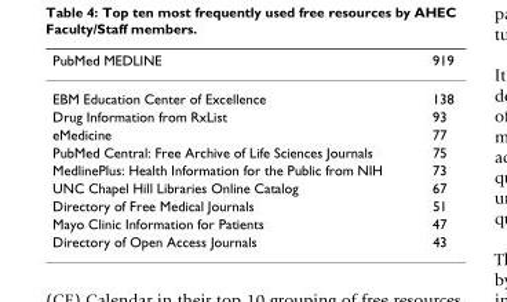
<table><thead><tr><td>PubMed MEDLINE</td><td>919</td></tr></thead><tbody><tr><td>EBM Education Center of Excellence</td><td>138</td></tr><tr><td>Drug Information from RxList</td><td>93</td></tr><tr><td>eMedicine</td><td>77</td></tr><tr><td>PubMed Central: Free Archive of Life Sciences Journals</td><td>75</td></tr><tr><td>MedlinePlus: Health Information for the Public from NIH</td><td>73</td></tr><tr><td>UNC Chapel Hill Libraries Online Catalog</td><td>67</td></tr><tr><td>Directory of Free Medical Journals</td><td>51</td></tr><tr><td>Mayo Clinic Information for Patients</td><td>47</td></tr><tr><td>Directory of Open Access Journals</td><td>43</td></tr></tbody></table>